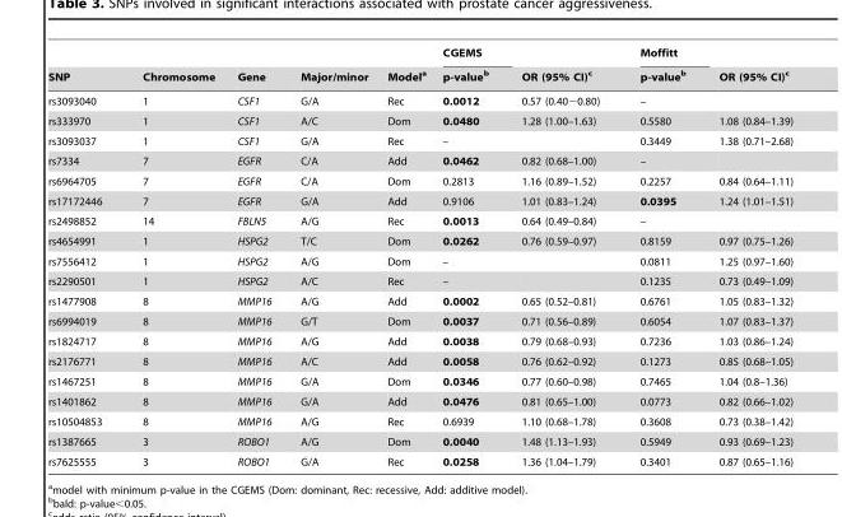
<table><thead><tr><td rowspan="2">SNP</td><td rowspan="2">Chromosome</td><td rowspan="2">Gene</td><td rowspan="2">Major/minor</td><td rowspan="2">Model<sup>a</sup></td><td rowspan="2">CGEMS p-value<sup>b</sup></td><td rowspan="2">OR (95% CI)<sup>c</sup></td><td rowspan="2">Moffitt p-value<sup>b</sup></td><td rowspan="2">OR (95% CI)<sup>c</sup></td></tr><tr></tr></thead><tbody><tr><td>rs3093040</td><td>1</td><td>CSF1</td><td>G/A</td><td>Rec</td><td>0.0012</td><td>0.57 (0.40−0.80)</td><td>–</td><td></td></tr><tr><td>rs333970</td><td>1</td><td>CSF1</td><td>A/C</td><td>Dom</td><td>0.0480</td><td>1.28 (1.00–1.63)</td><td>0.5580</td><td>1.08 (0.84–1.39)</td></tr><tr><td>rs3093037</td><td>1</td><td>CSF1</td><td>G/A</td><td>Rec</td><td>–</td><td></td><td>0.3449</td><td>1.38 (0.71–2.68)</td></tr><tr><td>rs7334</td><td>7</td><td>EGFR</td><td>C/A</td><td>Add</td><td>0.0462</td><td>0.82 (0.68–1.00)</td><td>–</td><td></td></tr><tr><td>rs6964705</td><td>7</td><td>EGFR</td><td>C/A</td><td>Dom</td><td>0.2813</td><td>1.16 (0.89–1.52)</td><td>0.2257</td><td>0.84 (0.64–1.11)</td></tr><tr><td>rs17172446</td><td>7</td><td>EGFR</td><td>G/A</td><td>Add</td><td>0.9106</td><td>1.01 (0.83–1.24)</td><td>0.0395</td><td>1.24 (1.01–1.51)</td></tr><tr><td>rs2498852</td><td>14</td><td>FBLN5</td><td>A/G</td><td>Rec</td><td>0.0013</td><td>0.64 (0.49–0.84)</td><td>–</td><td></td></tr><tr><td>rs4654991</td><td>1</td><td>HSPG2</td><td>T/C</td><td>Dom</td><td>0.0262</td><td>0.76 (0.59–0.97)</td><td>0.8159</td><td>0.97 (0.75–1.26)</td></tr><tr><td>rs7556412</td><td>1</td><td>HSPG2</td><td>A/G</td><td>Dom</td><td>–</td><td></td><td>0.0811</td><td>1.25 (0.97–1.60)</td></tr><tr><td>rs2290501</td><td>1</td><td>HSPG2</td><td>A/C</td><td>Rec</td><td>–</td><td></td><td>0.1235</td><td>0.73 (0.49–1.09)</td></tr><tr><td>rs1477908</td><td>8</td><td>MMP16</td><td>A/G</td><td>Add</td><td>0.0002</td><td>0.65 (0.52–0.81)</td><td>0.6761</td><td>1.05 (0.83–1.32)</td></tr><tr><td>rs6994019</td><td>8</td><td>MMP16</td><td>G/T</td><td>Dom</td><td>0.0037</td><td>0.71 (0.56–0.89)</td><td>0.6054</td><td>1.07 (0.83–1.37)</td></tr><tr><td>rs1824717</td><td>8</td><td>MMP16</td><td>A/G</td><td>Add</td><td>0.0038</td><td>0.79 (0.68–0.93)</td><td>0.7236</td><td>1.03 (0.86–1.24)</td></tr><tr><td>rs2176771</td><td>8</td><td>MMP16</td><td>A/C</td><td>Add</td><td>0.0058</td><td>0.76 (0.62–0.92)</td><td>0.1273</td><td>0.85 (0.68–1.05)</td></tr><tr><td>rs1467251</td><td>8</td><td>MMP16</td><td>G/A</td><td>Dom</td><td>0.0346</td><td>0.77 (0.60–0.98)</td><td>0.7465</td><td>1.04 (0.8–1.36)</td></tr><tr><td>rs1401862</td><td>8</td><td>MMP16</td><td>G/A</td><td>Add</td><td>0.0476</td><td>0.81 (0.65–1.00)</td><td>0.0773</td><td>0.82 (0.66–1.02)</td></tr><tr><td>rs10504853</td><td>8</td><td>MMP16</td><td>A/G</td><td>Rec</td><td>0.6939</td><td>1.10 (0.68–1.78)</td><td>0.3608</td><td>0.73 (0.38–1.42)</td></tr><tr><td>rs1387665</td><td>3</td><td>ROBO1</td><td>A/G</td><td>Dom</td><td>0.0040</td><td>1.48 (1.13–1.93)</td><td>0.5949</td><td>0.93 (0.69–1.23)</td></tr><tr><td>rs7625555</td><td>3</td><td>ROBO1</td><td>G/A</td><td>Rec</td><td>0.0258</td><td>1.36 (1.04–1.79)</td><td>0.3401</td><td>0.87 (0.65–1.16)</td></tr></tbody></table>